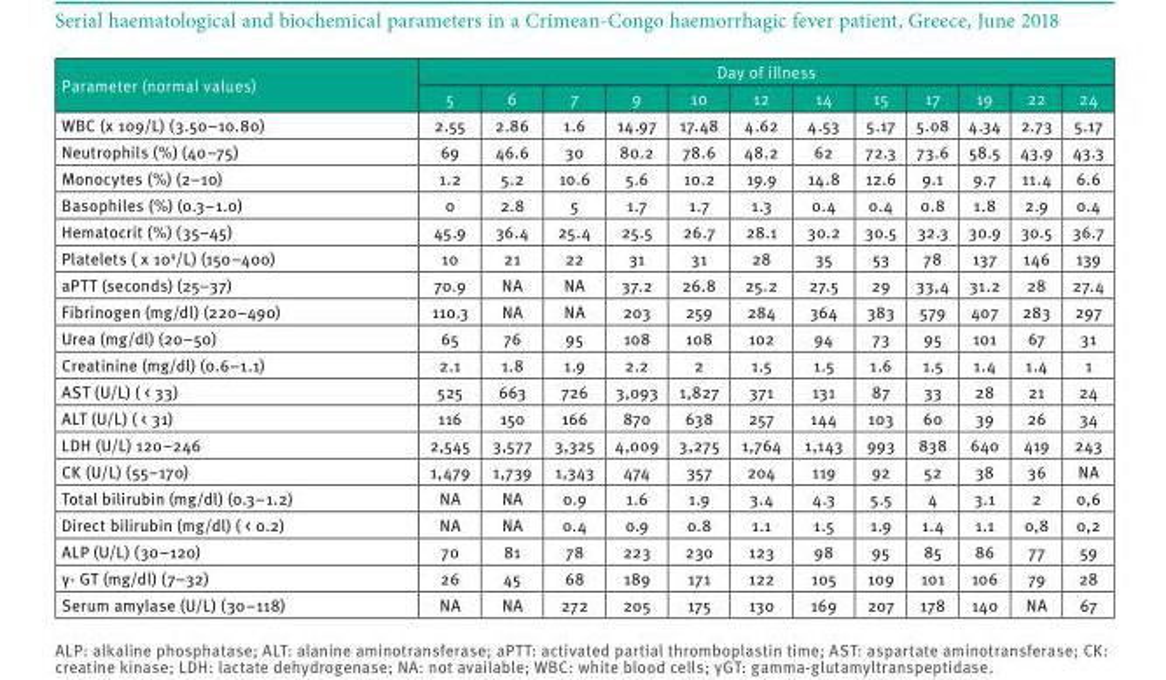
<table><thead><tr><td rowspan="2">Parameter (normal values)</td><td colspan="12">Day of illness</td></tr><tr><td>5</td><td>6</td><td>7</td><td>9</td><td>10</td><td>12</td><td>14</td><td>15</td><td>17</td><td>19</td><td>22</td><td>24</td></tr></thead><tbody><tr><td>WBC (x 10<sup>9</sup>/L) (3.50–10.80)</td><td>2.55</td><td>2.86</td><td>1.6</td><td>14.97</td><td>17.48</td><td>4.62</td><td>4.53</td><td>5.17</td><td>5.08</td><td>4.34</td><td>2.73</td><td>5.17</td></tr><tr><td>Neutrophils (%) (40–75)</td><td>69</td><td>46.6</td><td>30</td><td>80.2</td><td>78.6</td><td>48.2</td><td>62</td><td>72.3</td><td>73.6</td><td>58.5</td><td>43.9</td><td>43.3</td></tr><tr><td>Monocytes (%) (2–10)</td><td>1.2</td><td>5.2</td><td>10.6</td><td>5.6</td><td>10.2</td><td>19.9</td><td>14.8</td><td>12.6</td><td>9.1</td><td>9.7</td><td>11.4</td><td>6.6</td></tr><tr><td>Basophiles (%) (0.3–1.0)</td><td>0</td><td>2.8</td><td>5</td><td>1.7</td><td>1.7</td><td>1.3</td><td>0.4</td><td>0.4</td><td>0.8</td><td>1.8</td><td>2.9</td><td>0.4</td></tr><tr><td>Hematocrit (%) (35–45)</td><td>45.9</td><td>36.4</td><td>25.4</td><td>25.5</td><td>26.7</td><td>28.1</td><td>30.2</td><td>30.5</td><td>32.3</td><td>30.9</td><td>30.5</td><td>36.7</td></tr><tr><td>Platelets ( x 10<sup>9</sup>/L) (150–400)</td><td>10</td><td>21</td><td>22</td><td>31</td><td>31</td><td>28</td><td>35</td><td>53</td><td>78</td><td>137</td><td>146</td><td>139</td></tr><tr><td>aPTT (seconds) (25–37)</td><td>70.9</td><td>NA</td><td>NA</td><td>37.2</td><td>26.8</td><td>25.2</td><td>27.5</td><td>29</td><td>33,4</td><td>31.2</td><td>28</td><td>27.4</td></tr><tr><td>Fibrinogen (mg/dl) (220–490)</td><td>110.3</td><td>NA</td><td>NA</td><td>203</td><td>259</td><td>284</td><td>364</td><td>383</td><td>579</td><td>407</td><td>283</td><td>297</td></tr><tr><td>Urea (mg/dl) (20–50)</td><td>65</td><td>76</td><td>95</td><td>108</td><td>108</td><td>102</td><td>94</td><td>73</td><td>95</td><td>101</td><td>67</td><td>31</td></tr><tr><td>Creatinine (mg/dl) (0.6–1.1)</td><td>2.1</td><td>1.8</td><td>1.9</td><td>2.2</td><td>2</td><td>1.5</td><td>1.5</td><td>1.6</td><td>1.5</td><td>1.4</td><td>1.4</td><td>1</td></tr><tr><td>AST (U/L) ( &lt; 33)</td><td>525</td><td>663</td><td>726</td><td>3,093</td><td>1,827</td><td>371</td><td>131</td><td>87</td><td>33</td><td>28</td><td>21</td><td>24</td></tr><tr><td>ALT (U/L) ( &lt; 31)</td><td>116</td><td>150</td><td>166</td><td>870</td><td>638</td><td>257</td><td>144</td><td>103</td><td>60</td><td>39</td><td>26</td><td>34</td></tr><tr><td>LDH (U/L) 120–246</td><td>2,545</td><td>3,577</td><td>3,325</td><td>4,009</td><td>3,275</td><td>1,764</td><td>1,143</td><td>993</td><td>838</td><td>640</td><td>419</td><td>243</td></tr><tr><td>CK (U/L) (55–170)</td><td>1,479</td><td>1,739</td><td>1,343</td><td>474</td><td>357</td><td>204</td><td>119</td><td>92</td><td>52</td><td>38</td><td>36</td><td>NA</td></tr><tr><td>Total bilirubin (mg/dl) (0.3–1.2)</td><td>ΝΑ</td><td>NA</td><td>0.9</td><td>1.6</td><td>1.9</td><td>3.4</td><td>4.3</td><td>5.5</td><td>4</td><td>3.1</td><td>2</td><td>0,6</td></tr><tr><td>Direct bilirubin (mg/dl) ( &lt; 0.2)</td><td>ΝΑ</td><td>NA</td><td>0.4</td><td>0.9</td><td>0.8</td><td>1.1</td><td>1.5</td><td>1.9</td><td>1.4</td><td>1.1</td><td>0,8</td><td>0,2</td></tr><tr><td>ALP (U/L) (30–120)</td><td>70</td><td>81</td><td>78</td><td>223</td><td>230</td><td>123</td><td>98</td><td>95</td><td>85</td><td>86</td><td>77</td><td>59</td></tr><tr><td>γ- GT (mg/dl) (7–32)</td><td>26</td><td>45</td><td>68</td><td>189</td><td>171</td><td>122</td><td>105</td><td>109</td><td>101</td><td>106</td><td>79</td><td>28</td></tr><tr><td>Serum amylase (U/L) (30–118)</td><td>ΝΑ</td><td>NA</td><td>272</td><td>205</td><td>175</td><td>130</td><td>169</td><td>207</td><td>178</td><td>140</td><td>NA</td><td>67</td></tr></tbody></table>